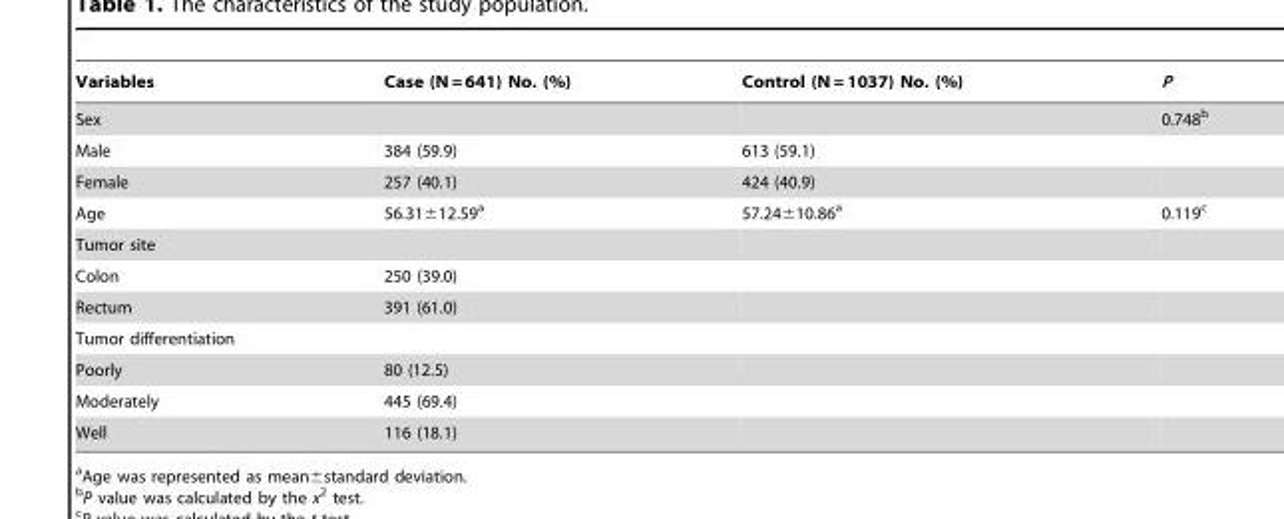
<table><thead><tr><td>Variables</td><td>Case (N = 641) No. (%)</td><td>Control (N = 1037) No. (%)</td><td>P</td></tr></thead><tbody><tr><td>Sex</td><td></td><td></td><td>0.748<sup>b</sup></td></tr><tr><td>Male</td><td>384 (59.9)</td><td>613 (59.1)</td><td></td></tr><tr><td>Female</td><td>257 (40.1)</td><td>424 (40.9)</td><td></td></tr><tr><td>Age</td><td>56.31±12.59<sup>a</sup></td><td>57.24±10.86<sup>a</sup></td><td>0.119<sup>c</sup></td></tr><tr><td colspan="4">Tumor site</td></tr><tr><td>Colon</td><td>250 (39.0)</td><td></td><td></td></tr><tr><td>Rectum</td><td>391 (61.0)</td><td></td><td></td></tr><tr><td colspan="4">Tumor differentiation</td></tr><tr><td>Poorly</td><td>80 (12.5)</td><td></td><td></td></tr><tr><td>Moderately</td><td>445 (69.4)</td><td></td><td></td></tr><tr><td>Well</td><td>116 (18.1)</td><td></td><td></td></tr></tbody></table>